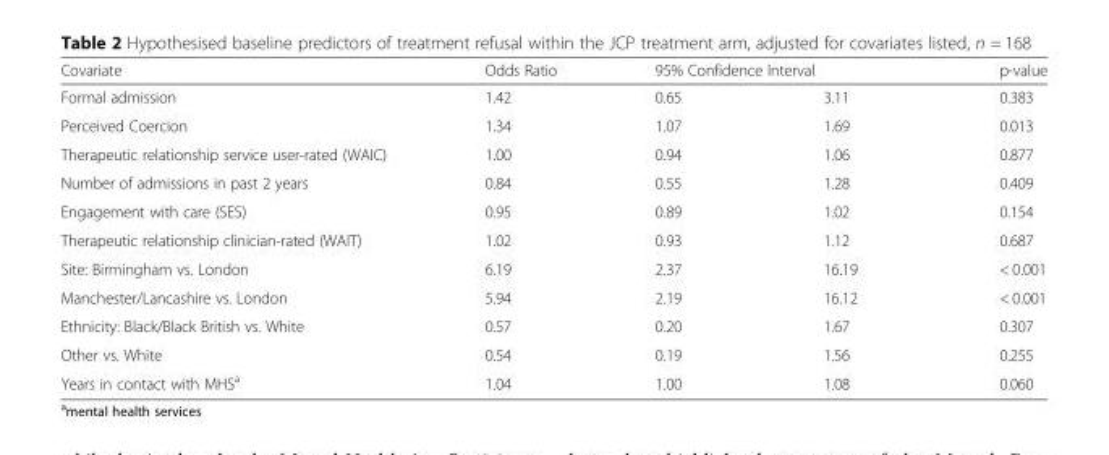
<table><thead><tr><td rowspan="2">Covariate Formal admission</td><td rowspan="2">Odds Ratio 1.42</td><td colspan="2">95% Confidence Interval</td><td rowspan="2">p-value 0.383</td></tr><tr><td>0.65</td><td>3.11</td></tr></thead><tbody><tr><td>Perceived Coercion</td><td>1.34</td><td>1.07</td><td>1.69</td><td>0.013</td></tr><tr><td>Therapeutic relationship service user-rated (WAIC)</td><td>1.00</td><td>0.94</td><td>1.06</td><td>0.877</td></tr><tr><td>Number of admissions in past 2 years</td><td>0.84</td><td>0.55</td><td>1.28</td><td>0.409</td></tr><tr><td>Engagement with care (SES)</td><td>0.95</td><td>0.89</td><td>1.02</td><td>0.154</td></tr><tr><td>Therapeutic relationship clinician-rated (WAIT)</td><td>1.02</td><td>0.93</td><td>1.12</td><td>0.687</td></tr><tr><td>Site: Birmingham vs. London</td><td>6.19</td><td>2.37</td><td>16.19</td><td>&lt; 0.001</td></tr><tr><td>Manchester/Lancashire vs. London</td><td>5.94</td><td>2.19</td><td>16.12</td><td>&lt; 0.001</td></tr><tr><td>Ethnicity: Black/Black British vs. White</td><td>0.57</td><td>0.20</td><td>1.67</td><td>0.307</td></tr><tr><td>Other vs. White</td><td>0.54</td><td>0.19</td><td>1.56</td><td>0.255</td></tr><tr><td>Years in contact with MHS<sup>a</sup></td><td>1.04</td><td>1.00</td><td>1.08</td><td>0.060</td></tr></tbody></table>